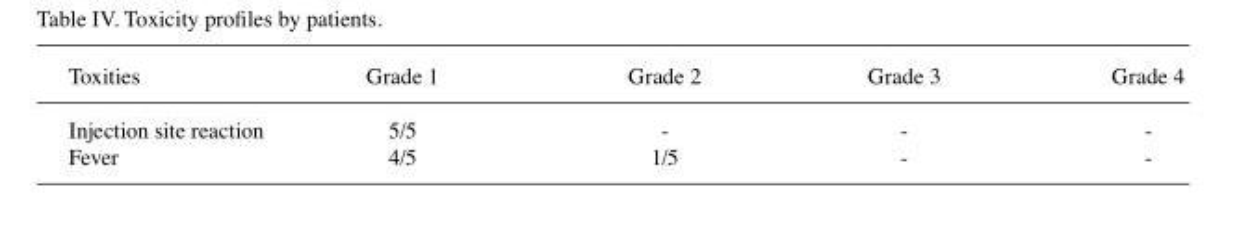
<table><thead><tr><td>Toxities</td><td>Grade 1</td><td>Grade 2</td><td>Grade 3</td><td>Grade 4</td></tr></thead><tbody><tr><td>Injection site reaction</td><td>5/5</td><td>-</td><td>-</td><td>-</td></tr><tr><td>Fever</td><td>4/5</td><td>1/5</td><td>-</td><td>-</td></tr></tbody></table>